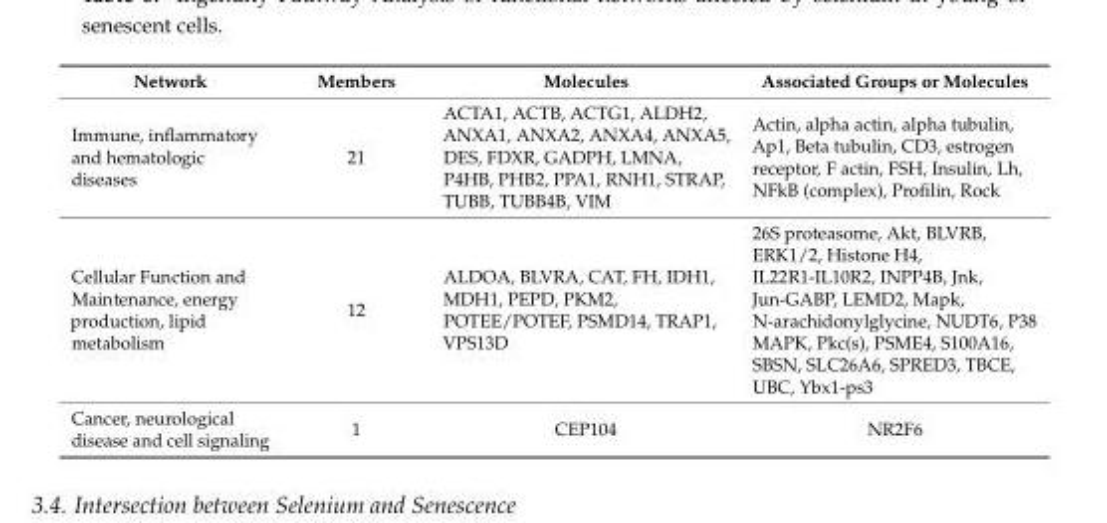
<table><thead><tr><td>Network</td><td>Members</td><td>Molecules</td><td>Associated Groups or Molecules</td></tr></thead><tbody><tr><td>Immune, inflammatory and hematologic diseases</td><td>21</td><td>ACTA1, ACTB, ACTG1, ALDH2, ANXA1, ANXA2, ANXA4, ANXA5, DES, FDXR, GADPH, LMNA, P4HB, PHB2, PPA1, RNH1, STRAP, TUBB, TUBB4B, VIM</td><td>Actin, alpha actin, alpha tubulin, Ap1, Beta tubulin, CD3, estrogen receptor, F actin, FSH, Insulin, Lh, NFkB (complex), Profilin, Rock</td></tr><tr><td>Cellular Function and Maintenance, energy production, lipid metabolism</td><td>12</td><td>ALDOA, BLVRA, CAT, FH, IDH1, MDH1, PEPD, PKM2, POTEE/POTEF, PSMD14, TRAP1, VPS13D</td><td>26S proteasome, Akt, BLVRB, ERK1/2, Histone H4, IL22R1-IL10R2, INPP4B, Jnk, Jun-GABP, LEMD2, Mapk, N-arachidonylglycine, NUDT6, P38 MAPK, Pkc(s), PSME4, S100A16, SBSN, SLC26A6, SPRED3, TBCE, UBC, Ybx1-ps3</td></tr><tr><td>Cancer, neurological disease and cell signaling</td><td>1</td><td>CEP104</td><td>NR2F6</td></tr></tbody></table>